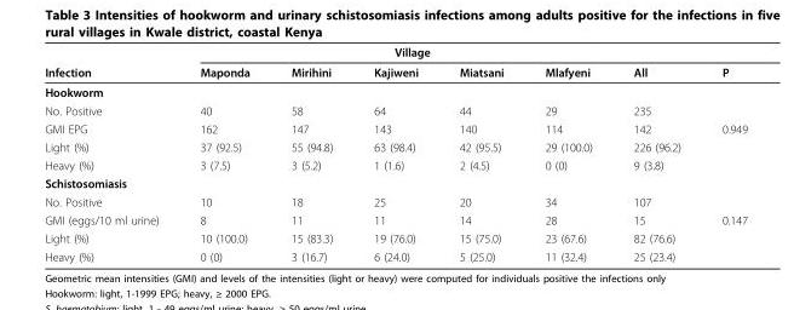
<table><thead><tr><td rowspan="2">Infection</td><td colspan="5">Village</td><td rowspan="2">All</td><td rowspan="2">P</td></tr><tr><td>Maponda</td><td>Mirihini</td><td>Kajiweni</td><td>Miatsani</td><td>Mlafyeni</td></tr></thead><tbody><tr><td colspan="8">Hookworm</td></tr><tr><td>No. Positive</td><td>40</td><td>58</td><td>64</td><td>44</td><td>29</td><td>235</td><td></td></tr><tr><td>GMI EPG</td><td>162</td><td>147</td><td>143</td><td>140</td><td>114</td><td>142</td><td>0.949</td></tr><tr><td>Light (%)</td><td>37 (92.5)</td><td>55 (94.8)</td><td>63 (98.4)</td><td>42 (95.5)</td><td>29 (100.0)</td><td>226 (96.2)</td><td></td></tr><tr><td>Heavy (%)</td><td>3 (7.5)</td><td>3 (5.2)</td><td>1 (1.6)</td><td>2 (4.5)</td><td>0 (0)</td><td>9 (3.8)</td><td></td></tr><tr><td colspan="8">Schistosomiasis</td></tr><tr><td>No. Positive</td><td>10</td><td>18</td><td>25</td><td>20</td><td>34</td><td>107</td><td></td></tr><tr><td>GMI (eggs/10 ml urine)</td><td>8</td><td>11</td><td>11</td><td>14</td><td>28</td><td>15</td><td>0.147</td></tr><tr><td>Light (%)</td><td>10 (100.0)</td><td>15 (83.3)</td><td>19 (76.0)</td><td>15 (75.0)</td><td>23 (67.6)</td><td>82 (76.6)</td><td></td></tr><tr><td>Heavy (%)</td><td>0 (0)</td><td>3 (16.7)</td><td>6 (24.0)</td><td>5 (25.0)</td><td>11 (32.4)</td><td>25 (23.4)</td><td></td></tr></tbody></table>